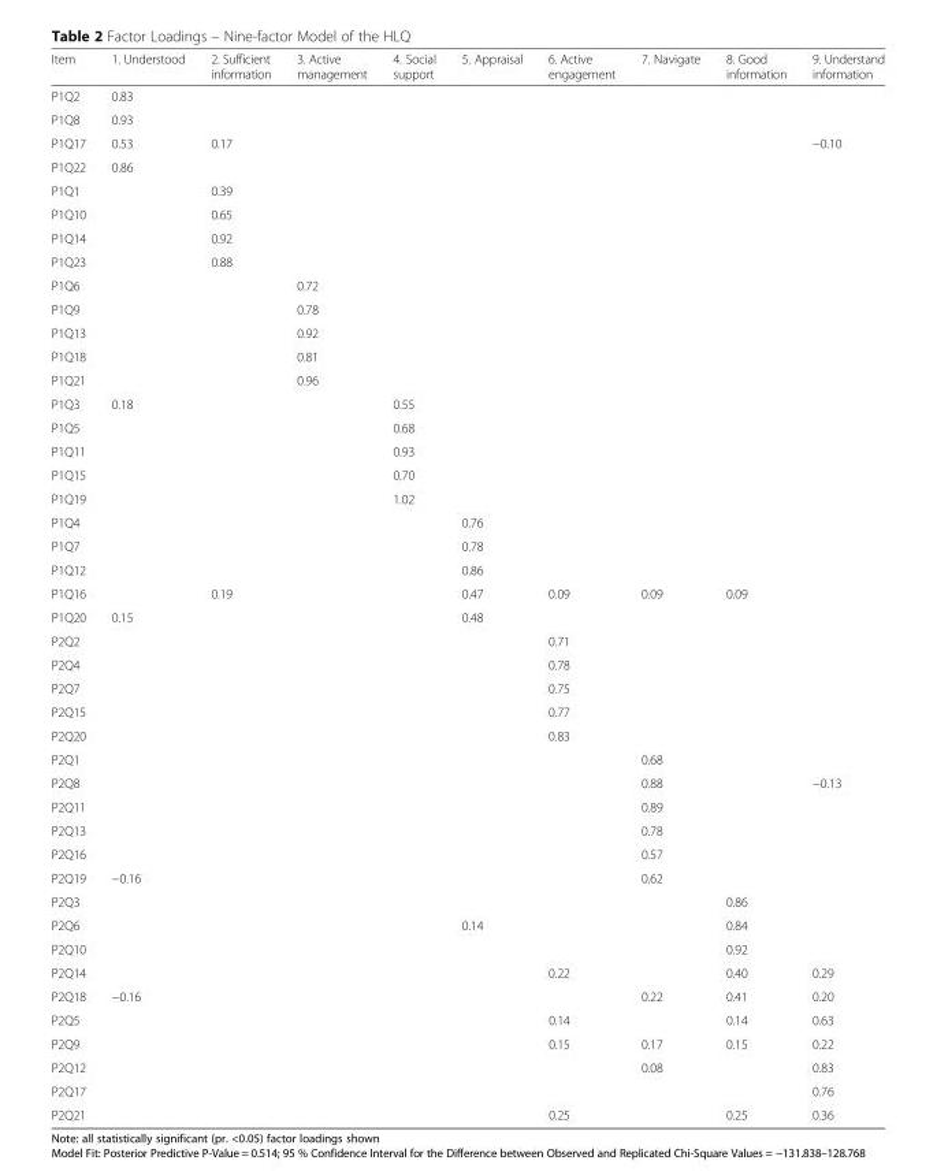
<table><thead><tr><td>Item</td><td>1. Understood</td><td>2. Sufficient information</td><td>3. Active management</td><td>4. Social support</td><td>5. Appraisal</td><td>6. Active engagement</td><td>7. Navigate</td><td>8. Good information</td><td>9. Understand information</td></tr></thead><tbody><tr><td>P1Q2</td><td>0.83</td><td></td><td></td><td></td><td></td><td></td><td></td><td></td><td></td></tr><tr><td>P1Q8</td><td>0.93</td><td></td><td></td><td></td><td></td><td></td><td></td><td></td><td></td></tr><tr><td>P1Q17</td><td>0.53</td><td>0.17</td><td></td><td></td><td></td><td></td><td></td><td></td><td>−0.10</td></tr><tr><td>P1Q22</td><td>0.86</td><td></td><td></td><td></td><td></td><td></td><td></td><td></td><td></td></tr><tr><td>P1Q1</td><td></td><td>0.39</td><td></td><td></td><td></td><td></td><td></td><td></td><td></td></tr><tr><td>P1Q10</td><td></td><td>0.65</td><td></td><td></td><td></td><td></td><td></td><td></td><td></td></tr><tr><td>P1Q14</td><td></td><td>0.92</td><td></td><td></td><td></td><td></td><td></td><td></td><td></td></tr><tr><td>P1Q23</td><td></td><td>0.88</td><td></td><td></td><td></td><td></td><td></td><td></td><td></td></tr><tr><td>P1Q6</td><td></td><td></td><td>0.72</td><td></td><td></td><td></td><td></td><td></td><td></td></tr><tr><td>P1Q9</td><td></td><td></td><td>0.78</td><td></td><td></td><td></td><td></td><td></td><td></td></tr><tr><td>P1Q13</td><td></td><td></td><td>0.92</td><td></td><td></td><td></td><td></td><td></td><td></td></tr><tr><td>P1Q18</td><td></td><td></td><td>0.81</td><td></td><td></td><td></td><td></td><td></td><td></td></tr><tr><td>P1Q21</td><td></td><td></td><td>0.96</td><td></td><td></td><td></td><td></td><td></td><td></td></tr><tr><td>P1Q3</td><td>0.18</td><td></td><td></td><td>0.55</td><td></td><td></td><td></td><td></td><td></td></tr><tr><td>P1Q5</td><td></td><td></td><td></td><td>0.68</td><td></td><td></td><td></td><td></td><td></td></tr><tr><td>P1Q11</td><td></td><td></td><td></td><td>0.93</td><td></td><td></td><td></td><td></td><td></td></tr><tr><td>P1Q15</td><td></td><td></td><td></td><td>0.70</td><td></td><td></td><td></td><td></td><td></td></tr><tr><td>P1Q19</td><td></td><td></td><td></td><td>1.02</td><td></td><td></td><td></td><td></td><td></td></tr><tr><td>P1Q4</td><td></td><td></td><td></td><td></td><td>0.76</td><td></td><td></td><td></td><td></td></tr><tr><td>P1Q7</td><td></td><td></td><td></td><td></td><td>0.78</td><td></td><td></td><td></td><td></td></tr><tr><td>P1Q12</td><td></td><td></td><td></td><td></td><td>0.86</td><td></td><td></td><td></td><td></td></tr><tr><td>P1Q16</td><td></td><td>0.19</td><td></td><td></td><td>0.47</td><td>0.09</td><td>0.09</td><td>0.09</td><td></td></tr><tr><td>P1Q20</td><td>0.15</td><td></td><td></td><td></td><td>0.48</td><td></td><td></td><td></td><td></td></tr><tr><td>P2Q2</td><td></td><td></td><td></td><td></td><td></td><td>0.71</td><td></td><td></td><td></td></tr><tr><td>P2Q4</td><td></td><td></td><td></td><td></td><td></td><td>0.78</td><td></td><td></td><td></td></tr><tr><td>P2Q7</td><td></td><td></td><td></td><td></td><td></td><td>0.75</td><td></td><td></td><td></td></tr><tr><td>P2Q15</td><td></td><td></td><td></td><td></td><td></td><td>0.77</td><td></td><td></td><td></td></tr><tr><td>P2Q20</td><td></td><td></td><td></td><td></td><td></td><td>0.83</td><td></td><td></td><td></td></tr><tr><td>P2Q1</td><td></td><td></td><td></td><td></td><td></td><td></td><td>0.68</td><td></td><td></td></tr><tr><td>P2Q8</td><td></td><td></td><td></td><td></td><td></td><td></td><td>0.88</td><td></td><td>−0.13</td></tr><tr><td>P2Q11</td><td></td><td></td><td></td><td></td><td></td><td></td><td>0.89</td><td></td><td></td></tr><tr><td>P2Q13</td><td></td><td></td><td></td><td></td><td></td><td></td><td>0.78</td><td></td><td></td></tr><tr><td>P2Q16</td><td></td><td></td><td></td><td></td><td></td><td></td><td>0.57</td><td></td><td></td></tr><tr><td>P2Q19</td><td>−0.16</td><td></td><td></td><td></td><td></td><td></td><td>0.62</td><td></td><td></td></tr><tr><td>P2Q3</td><td></td><td></td><td></td><td></td><td></td><td></td><td></td><td>0.86</td><td></td></tr><tr><td>P2Q6</td><td></td><td></td><td></td><td></td><td>0.14</td><td></td><td></td><td>0.84</td><td></td></tr><tr><td>P2Q10</td><td></td><td></td><td></td><td></td><td></td><td></td><td></td><td>0.92</td><td></td></tr><tr><td>P2Q14</td><td></td><td></td><td></td><td></td><td></td><td>0.22</td><td></td><td>0.40</td><td>0.29</td></tr><tr><td>P2Q18</td><td>−0.16</td><td></td><td></td><td></td><td></td><td></td><td>0.22</td><td>0.41</td><td>0.20</td></tr><tr><td>P2Q5</td><td></td><td></td><td></td><td></td><td></td><td>0.14</td><td></td><td>0.14</td><td>0.63</td></tr><tr><td>P2Q9</td><td></td><td></td><td></td><td></td><td></td><td>0.15</td><td>0.17</td><td>0.15</td><td>0.22</td></tr><tr><td>P2Q12</td><td></td><td></td><td></td><td></td><td></td><td></td><td>0.08</td><td></td><td>0.83</td></tr><tr><td>P2Q17</td><td></td><td></td><td></td><td></td><td></td><td></td><td></td><td></td><td>0.76</td></tr><tr><td>P2Q21</td><td></td><td></td><td></td><td></td><td></td><td>0.25</td><td></td><td>0.25</td><td>0.36</td></tr></tbody></table>